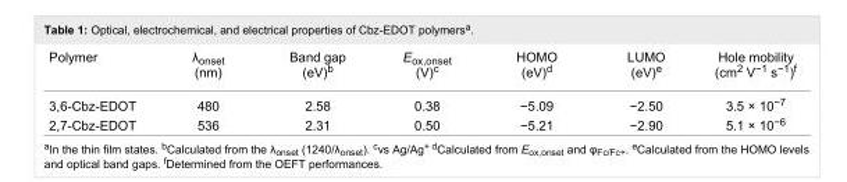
<table><tbody><tr><td>Polymer</td><td>λ<sub>onset</sub> (nm)</td><td>Band gap (eV)<sup>b</sup></td><td>E<sub>ox,onset</sub> (V)<sup>c</sup></td><td>HOMO (eV)<sup>d</sup></td><td>LUMO (eV)<sup>e</sup></td><td>Hole mobility (cm<sup>2</sup> V<sup>−1</sup> s<sup>−1</sup>)<sup>f</sup></td></tr><tr><td>3,6-Cbz-EDOT</td><td>480</td><td>2.58</td><td>0.38</td><td>−5.09</td><td>−2.50</td><td>3.5 × 10<sup>−7</sup></td></tr><tr><td>2,7-Cbz-EDOT</td><td>536</td><td>2.31</td><td>0.50</td><td>−5.21</td><td>−2.90</td><td>5.1 × 10<sup>−6</sup></td></tr></tbody></table>